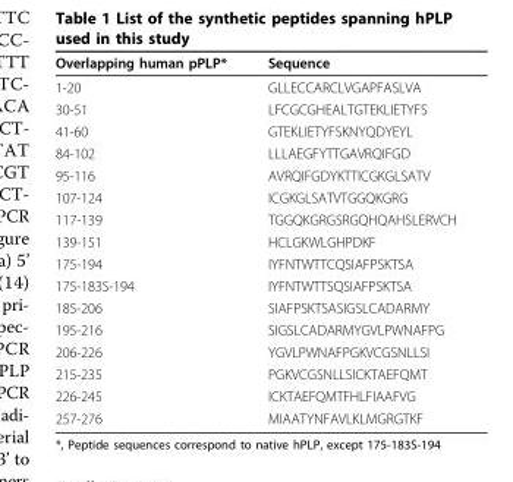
<table><thead><tr><td>Overlapping human pPLP*</td><td>Sequence</td></tr></thead><tbody><tr><td>1-20</td><td>GLLECCARCLVGAPFASLVA</td></tr><tr><td>30-51</td><td>LFCGCGHEALTGTEKLIETYFS</td></tr><tr><td>41-60</td><td>GTEKLIETYFSKNYQDYEYL</td></tr><tr><td>84-102</td><td>LLLAEGFYTTGAVRQIFGD</td></tr><tr><td>95-116</td><td>AVRQIFGDYKTTICGKGLSATV</td></tr><tr><td>107-124</td><td>ICGKGLSATVTGGQKGRG</td></tr><tr><td>117-139</td><td>TGGQKGRGSRGQHQAHSLERVCH</td></tr><tr><td>139-151</td><td>HCLGKWLGHPDKF</td></tr><tr><td>175-194</td><td>IYFNTWTTCQSIAFPSKTSA</td></tr><tr><td>175-183S-194</td><td>IYFNTWTTSQSIAFPSKTSA</td></tr><tr><td>185-206</td><td>SIAFPSKTSASIGSLCADARMY</td></tr><tr><td>195-216</td><td>SIGSLCADARMYGVLPWNAFPG</td></tr><tr><td>206-226</td><td>YGVLPWNAFPGKVCGSNLLSI</td></tr><tr><td>215-235</td><td>PGKVCGSNLLSICKTAEFQMT</td></tr><tr><td>226-245</td><td>ICKTAEFQMTFHLFIAAFVG</td></tr><tr><td>257-276</td><td>MIAATYNFAVLKLMGRGTKF</td></tr></tbody></table>